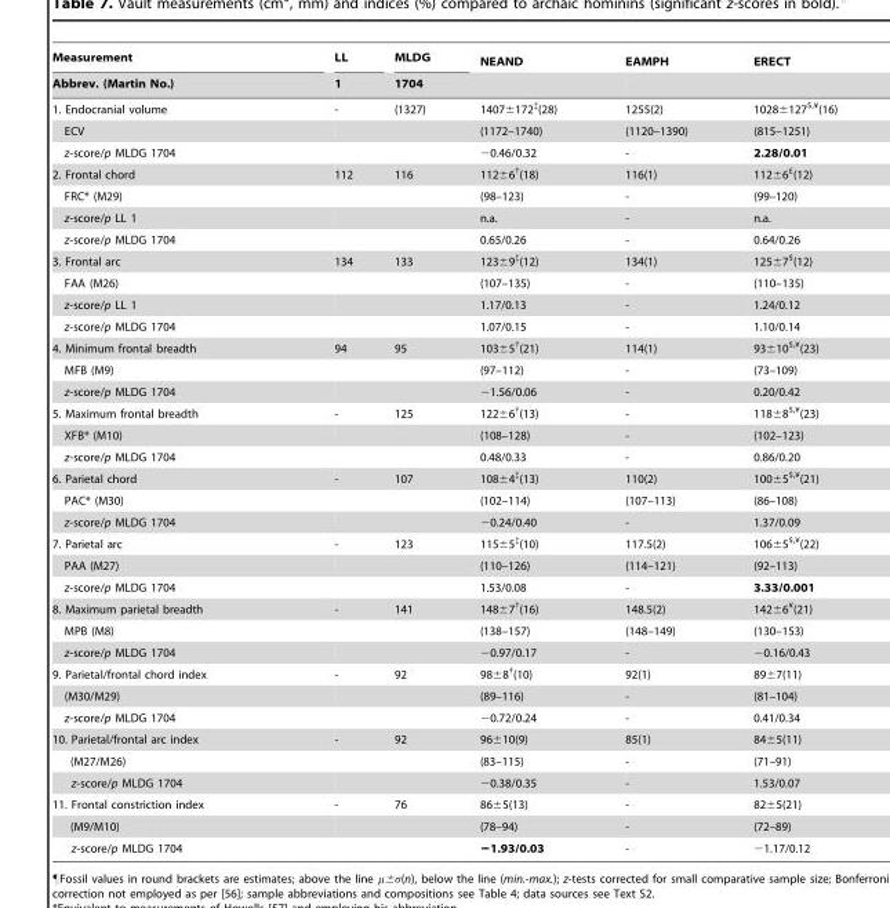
<table><thead><tr><td rowspan="2">Measurement Abbrev. (Martin No.)</td><td rowspan="2">LL 1</td><td rowspan="2">MLDG 1704</td><td rowspan="2">NEAND</td><td rowspan="2">EAMPH</td><td rowspan="2">ERECT</td></tr><tr></tr></thead><tbody><tr><td>1. Endocranial volume</td><td>-</td><td>(1327)</td><td>1407±172‡(28)</td><td>1255(2)</td><td>1028±127$<sup>,</sup>¥(16)</td></tr><tr><td>ECV</td><td></td><td></td><td>(1172–1740)</td><td>(1120–1390)</td><td>(815–1251)</td></tr><tr><td>z-score/p MLDG 1704</td><td></td><td></td><td>−0.46/0.32</td><td>-</td><td>2.28/0.01</td></tr><tr><td>2. Frontal chord</td><td>112</td><td>116</td><td>112±6†(18)</td><td>116(1)</td><td>112±6£(12)</td></tr><tr><td>FRC* (M29)</td><td></td><td></td><td>(98–123)</td><td>-</td><td>(99–120)</td></tr><tr><td>z-score/p LL 1</td><td></td><td></td><td>n.a.</td><td>-</td><td>n.a.</td></tr><tr><td>z-score/p MLDG 1704</td><td></td><td></td><td>0.65/0.26</td><td>-</td><td>0.64/0.26</td></tr><tr><td>3. Frontal arc</td><td>134</td><td>133</td><td>123±9‡(12)</td><td>134(1)</td><td>125±7$(12)</td></tr><tr><td>FAA (M26)</td><td></td><td></td><td>(107–135)</td><td>-</td><td>(110–135)</td></tr><tr><td>z-score/p LL 1</td><td></td><td></td><td>1.17/0.13</td><td>-</td><td>1.24/0.12</td></tr><tr><td>z-score/p MLDG 1704</td><td></td><td></td><td>1.07/0.15</td><td>-</td><td>1.10/0.14</td></tr><tr><td>4. Minimum frontal breadth</td><td>94</td><td>95</td><td>103±5†(21)</td><td>114(1)</td><td>93±10$<sup>,</sup>¥(23)</td></tr><tr><td>MFB (M9)</td><td></td><td></td><td>(97–112)</td><td>-</td><td>(73–109)</td></tr><tr><td>z-score/p MLDG 1704</td><td></td><td></td><td>−1.56/0.06</td><td>-</td><td>0.20/0.42</td></tr><tr><td>5. Maximum frontal breadth</td><td>-</td><td>125</td><td>122±6†(13)</td><td>-</td><td>118±8$<sup>,</sup>¥(23)</td></tr><tr><td>XFB* (M10)</td><td></td><td></td><td>(108–128)</td><td>-</td><td>(102–123)</td></tr><tr><td>z-score/p MLDG 1704</td><td></td><td></td><td>0.48/0.33</td><td>-</td><td>0.86/0.20</td></tr><tr><td>6. Parietal chord</td><td>-</td><td>107</td><td>108±4‡(13)</td><td>110(2)</td><td>100±5$<sup>,</sup>¥(21)</td></tr><tr><td>PAC* (M30)</td><td></td><td></td><td>(102–114)</td><td>(107–113)</td><td>(86–108)</td></tr><tr><td>z-score/p MLDG 1704</td><td></td><td></td><td>−0.24/0.40</td><td>-</td><td>1.37/0.09</td></tr><tr><td>7. Parietal arc</td><td>-</td><td>123</td><td>115±5‡(10)</td><td>117.5(2)</td><td>106±5$<sup>,</sup>¥(22)</td></tr><tr><td>PAA (M27)</td><td></td><td></td><td>(110–126)</td><td>(114–121)</td><td>(92–113)</td></tr><tr><td>z-score/p MLDG 1704</td><td></td><td></td><td>1.53/0.08</td><td>-</td><td>3.33/0.001</td></tr><tr><td>8. Maximum parietal breadth</td><td>-</td><td>141</td><td>148±7†(16)</td><td>148.5(2)</td><td>142±6¥(21)</td></tr><tr><td>MPB (M8)</td><td></td><td></td><td>(138–157)</td><td>(148–149)</td><td>(130–153)</td></tr><tr><td>z-score/p MLDG 1704</td><td></td><td></td><td>−0.97/0.17</td><td>-</td><td>−0.16/0.43</td></tr><tr><td>9. Parietal/frontal chord index</td><td>-</td><td>92</td><td>98±8†(10)</td><td>92(1)</td><td>89±7(11)</td></tr><tr><td>(M30/M29)</td><td></td><td></td><td>(89–116)</td><td>-</td><td>(81–104)</td></tr><tr><td>z-score/p MLDG 1704</td><td></td><td></td><td>−0.72/0.24</td><td>-</td><td>0.41/0.34</td></tr><tr><td>10. Parietal/frontal arc index</td><td>-</td><td>92</td><td>96±10(9)</td><td>85(1)</td><td>84±5(11)</td></tr><tr><td>(M27/M26)</td><td></td><td></td><td>(83–115)</td><td>-</td><td>(71–91)</td></tr><tr><td>z-score/p MLDG 1704</td><td></td><td></td><td>−0.38/0.35</td><td>-</td><td>1.53/0.07</td></tr><tr><td>11. Frontal constriction index</td><td>-</td><td>76</td><td>86±5(13)</td><td>-</td><td>82±5(21)</td></tr><tr><td>(M9/M10)</td><td></td><td></td><td>(78–94)</td><td>-</td><td>(72–89)</td></tr><tr><td>z-score/p MLDG 1704</td><td></td><td></td><td>−1.93/0.03</td><td>-</td><td>−1.17/0.12</td></tr></tbody></table>